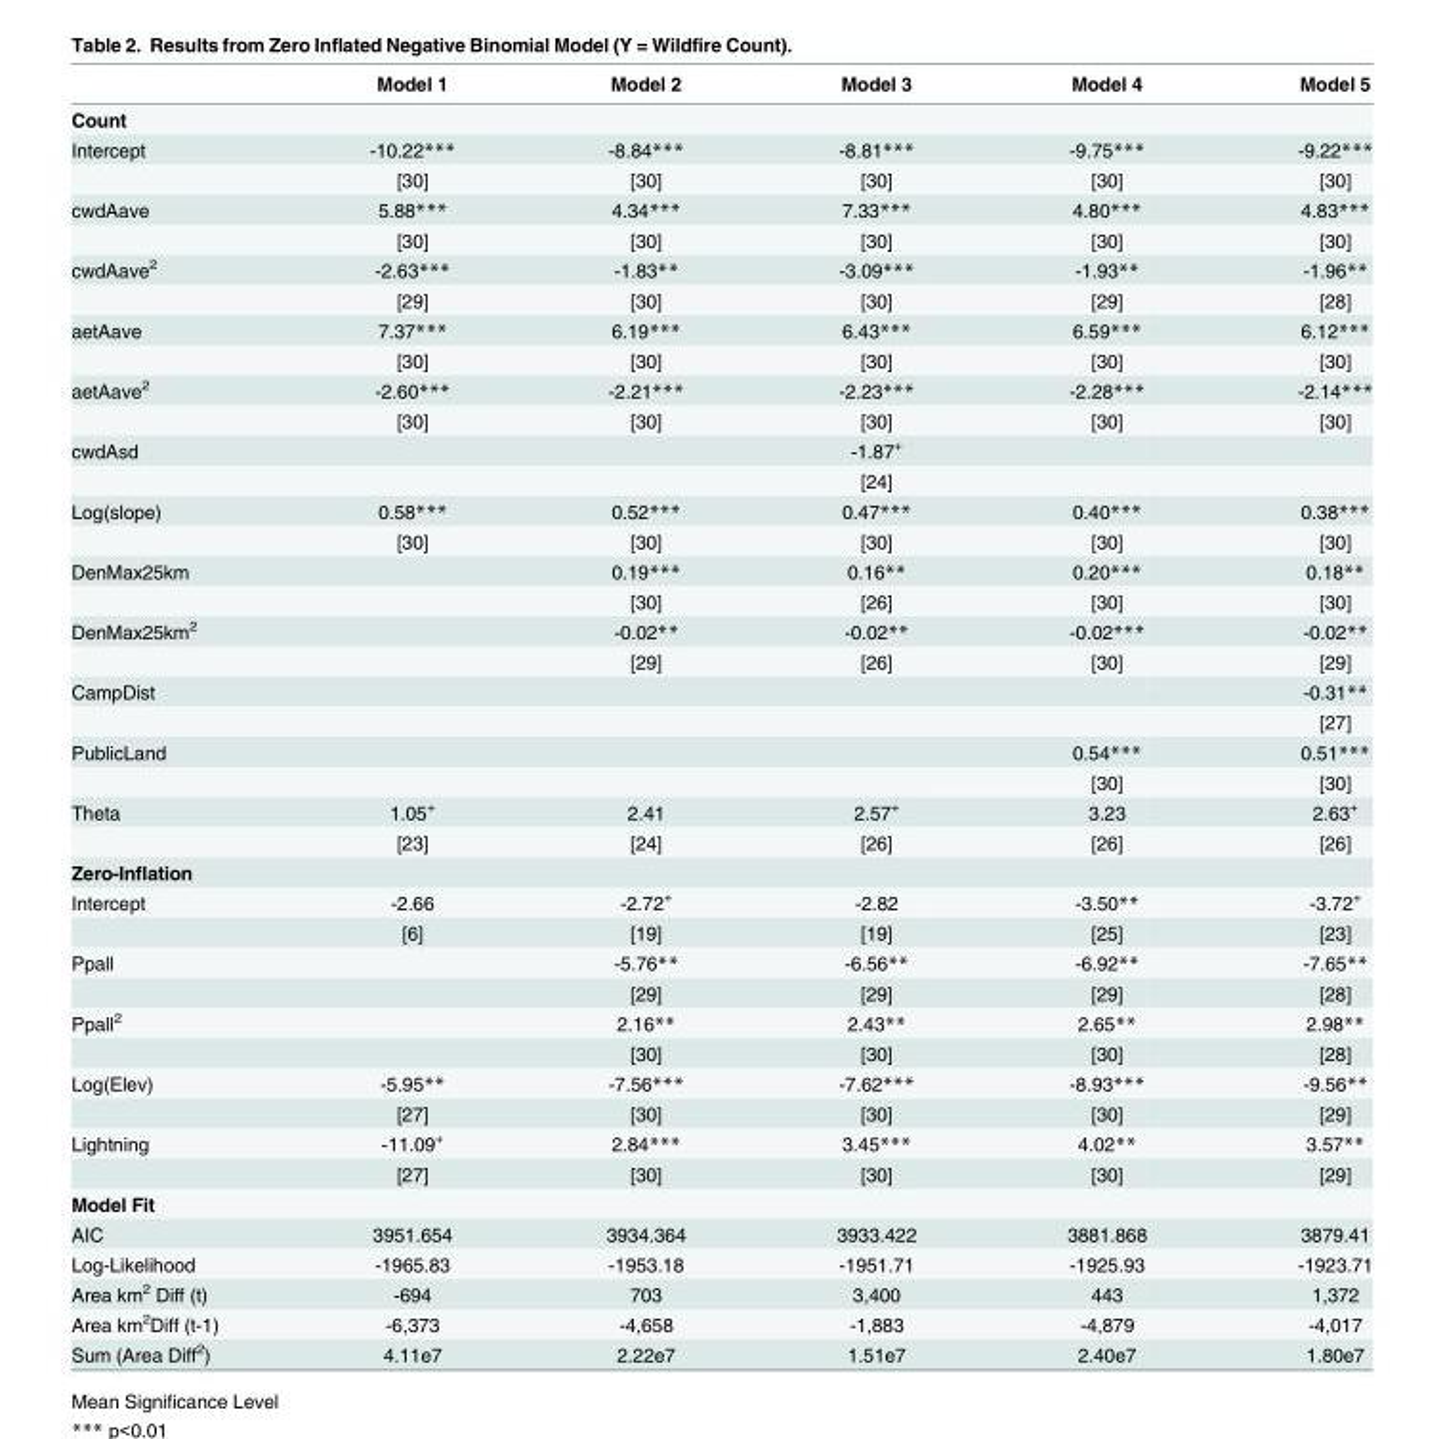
<table><thead><tr><td></td><td>Model 1</td><td>Model 2</td><td>Model 3</td><td>Model 4</td><td>Model 5</td></tr></thead><tbody><tr><td colspan="6">Count</td></tr><tr><td rowspan="2">Intercept</td><td>-10.22***</td><td>-8.84***</td><td>-8.81***</td><td>-9.75***</td><td>-9.22***</td></tr><tr><td>[30]</td><td>[30]</td><td>[30]</td><td>[30]</td><td>[30]</td></tr><tr><td rowspan="2">cwdAave</td><td>5.88***</td><td>4.34***</td><td>7.33***</td><td>4.80***</td><td>4.83***</td></tr><tr><td>[30]</td><td>[30]</td><td>[30]</td><td>[30]</td><td>[30]</td></tr><tr><td rowspan="2">cwdAave<sup>2</sup></td><td>-2.63***</td><td>-1.83**</td><td>-3.09***</td><td>-1.93**</td><td>-1.96**</td></tr><tr><td>[29]</td><td>[30]</td><td>[30]</td><td>[29]</td><td>[28]</td></tr><tr><td rowspan="2">aetAave</td><td>7.37***</td><td>6.19***</td><td>6.43***</td><td>6.59***</td><td>6.12***</td></tr><tr><td>[30]</td><td>[30]</td><td>[30]</td><td>[30]</td><td>[30]</td></tr><tr><td rowspan="2">aetAave<sup>2</sup></td><td>-2.60***</td><td>-2.21***</td><td>-2.23***</td><td>-2.28***</td><td>-2.14***</td></tr><tr><td>[30]</td><td>[30]</td><td>[30]</td><td>[30]</td><td>[30]</td></tr><tr><td rowspan="2">cwdAsd</td><td></td><td></td><td>-1.87<sup>+</sup></td><td></td><td></td></tr><tr><td></td><td></td><td>[24]</td><td></td><td></td></tr><tr><td rowspan="2">Log(slope)</td><td>0.58***</td><td>0.52***</td><td>0.47***</td><td>0.40***</td><td>0.38***</td></tr><tr><td>[30]</td><td>[30]</td><td>[30]</td><td>[30]</td><td>[30]</td></tr><tr><td rowspan="2">DenMax25km</td><td></td><td>0.19***</td><td>0.16**</td><td>0.20***</td><td>0.18**</td></tr><tr><td></td><td>[30]</td><td>[26]</td><td>[30]</td><td>[30]</td></tr><tr><td rowspan="2">DenMax25km<sup>2</sup></td><td></td><td>-0.02**</td><td>-0.02**</td><td>-0.02***</td><td>-0.02**</td></tr><tr><td></td><td>[29]</td><td>[26]</td><td>[30]</td><td>[29]</td></tr><tr><td rowspan="2">CampDist</td><td></td><td></td><td></td><td></td><td>-0.31**</td></tr><tr><td></td><td></td><td></td><td></td><td>[27]</td></tr><tr><td rowspan="2">PublicLand</td><td></td><td></td><td></td><td>0.54***</td><td>0.51***</td></tr><tr><td></td><td></td><td></td><td>[30]</td><td>[30]</td></tr><tr><td rowspan="2">Theta</td><td>1.05<sup>+</sup></td><td>2.41</td><td>2.57<sup>+</sup></td><td>3.23</td><td>2.63<sup>+</sup></td></tr><tr><td>[23]</td><td>[24]</td><td>[26]</td><td>[26]</td><td>[26]</td></tr><tr><td colspan="6">Zero-Inflation</td></tr><tr><td rowspan="2">Intercept</td><td>-2.66</td><td>-2.72<sup>+</sup></td><td>-2.82</td><td>-3.50**</td><td>-3.72<sup>+</sup></td></tr><tr><td>[6]</td><td>[19]</td><td>[19]</td><td>[25]</td><td>[23]</td></tr><tr><td rowspan="2">Ppall</td><td></td><td>-5.76**</td><td>-6.56**</td><td>-6.92**</td><td>-7.65**</td></tr><tr><td></td><td>[29]</td><td>[29]</td><td>[29]</td><td>[28]</td></tr><tr><td rowspan="2">Ppall<sup>2</sup></td><td></td><td>2.16**</td><td>2.43**</td><td>2.65**</td><td>2.98**</td></tr><tr><td></td><td>[30]</td><td>[30]</td><td>[30]</td><td>[28]</td></tr><tr><td rowspan="2">Log(Elev)</td><td>-5.95**</td><td>-7.56***</td><td>-7.62***</td><td>-8.93***</td><td>-9.56**</td></tr><tr><td>[27]</td><td>[30]</td><td>[30]</td><td>[30]</td><td>[29]</td></tr><tr><td rowspan="2">Lightning</td><td>-11.09<sup>+</sup></td><td>2.84***</td><td>3.45***</td><td>4.02**</td><td>3.57**</td></tr><tr><td>[27]</td><td>[30]</td><td>[30]</td><td>[30]</td><td>[29]</td></tr><tr><td colspan="6">Model Fit</td></tr><tr><td>AIC</td><td>3951.654</td><td>3934.364</td><td>3933.422</td><td>3881.868</td><td>3879.41</td></tr><tr><td>Log-Likelihood</td><td>-1965.83</td><td>-1953.18</td><td>-1951.71</td><td>-1925.93</td><td>-1923.71</td></tr><tr><td>Area km<sup>2</sup> Diff (t)</td><td>-694</td><td>703</td><td>3,400</td><td>443</td><td>1,372</td></tr><tr><td>Area km<sup>2</sup>Diff (t-1)</td><td>-6,373</td><td>-4,658</td><td>-1,883</td><td>-4,879</td><td>-4,017</td></tr><tr><td>Sum (Area Diff<sup>2</sup>)</td><td>4.11e7</td><td>2.22e7</td><td>1.51e7</td><td>2.40e7</td><td>1.80e7</td></tr></tbody></table>